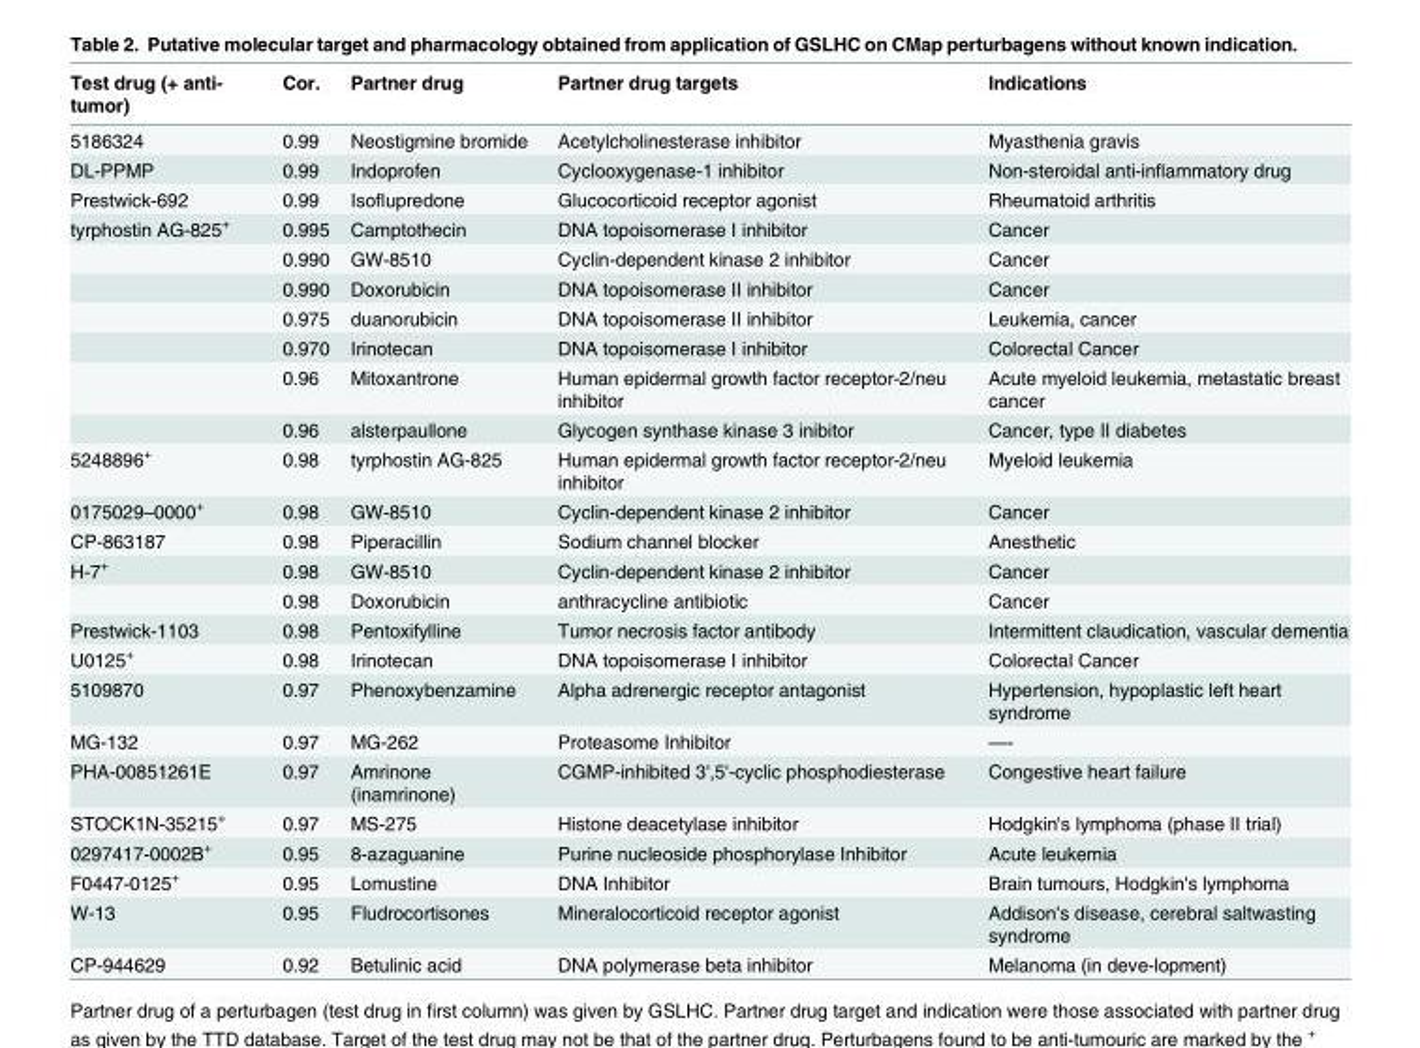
<table><thead><tr><td>Test drug (+ anti- tumor)</td><td>Cor.</td><td>Partner drug</td><td>Partner drug targets</td><td>Indications</td></tr></thead><tbody><tr><td>5186324</td><td>0.99</td><td>Neostigmine bromide</td><td>Acetylcholinesterase inhibitor</td><td>Myasthenia gravis</td></tr><tr><td>DL-PPMP</td><td>0.99</td><td>Indoprofen</td><td>Cyclooxygenase-1 inhibitor</td><td>Non-steroidal anti-inflammatory drug</td></tr><tr><td>Prestwick-692</td><td>0.99</td><td>Isoflupredone</td><td>Glucocorticoid receptor agonist</td><td>Rheumatoid arthritis</td></tr><tr><td rowspan="7">tyrphostin AG-825<sup>+</sup></td><td>0.995</td><td>Camptothecin</td><td>DNA topoisomerase I inhibitor</td><td>Cancer</td></tr><tr><td>0.990</td><td>GW-8510</td><td>Cyclin-dependent kinase 2 inhibitor</td><td>Cancer</td></tr><tr><td>0.990</td><td>Doxorubicin</td><td>DNA topoisomerase II inhibitor</td><td>Cancer</td></tr><tr><td>0.975</td><td>duanorubicin</td><td>DNA topoisomerase II inhibitor</td><td>Leukemia, cancer</td></tr><tr><td>0.970</td><td>Irinotecan</td><td>DNA topoisomerase I inhibitor</td><td>Colorectal Cancer</td></tr><tr><td>0.96</td><td>Mitoxantrone</td><td>Human epidermal growth factor receptor-2/neu inhibitor</td><td>Acute myeloid leukemia, metastatic breast cancer</td></tr><tr><td>0.96</td><td>alsterpaullone</td><td>Glycogen synthase kinase 3 inibitor</td><td>Cancer, type II diabetes</td></tr><tr><td>5248896<sup>+</sup></td><td>0.98</td><td>tyrphostin AG-825</td><td>Human epidermal growth factor receptor-2/neu inhibitor</td><td>Myeloid leukemia</td></tr><tr><td>0175029–0000<sup>+</sup></td><td>0.98</td><td>GW-8510</td><td>Cyclin-dependent kinase 2 inhibitor</td><td>Cancer</td></tr><tr><td>CP-863187</td><td>0.98</td><td>Piperacillin</td><td>Sodium channel blocker</td><td>Anesthetic</td></tr><tr><td rowspan="2">H-7<sup>+</sup></td><td>0.98</td><td>GW-8510</td><td>Cyclin-dependent kinase 2 inhibitor</td><td>Cancer</td></tr><tr><td>0.98</td><td>Doxorubicin</td><td>anthracycline antibiotic</td><td>Cancer</td></tr><tr><td>Prestwick-1103</td><td>0.98</td><td>Pentoxifylline</td><td>Tumor necrosis factor antibody</td><td>Intermittent claudication, vascular dementia</td></tr><tr><td>U0125<sup>+</sup></td><td>0.98</td><td>Irinotecan</td><td>DNA topoisomerase I inhibitor</td><td>Colorectal Cancer</td></tr><tr><td>5109870</td><td>0.97</td><td>Phenoxybenzamine</td><td>Alpha adrenergic receptor antagonist</td><td>Hypertension, hypoplastic left heart syndrome</td></tr><tr><td>MG-132</td><td>0.97</td><td>MG-262</td><td>Proteasome Inhibitor</td><td>—-</td></tr><tr><td>PHA-00851261E</td><td>0.97</td><td>Amrinone (inamrinone)</td><td>CGMP-inhibited 3&#x27;,5&#x27;-cyclic phosphodiesterase</td><td>Congestive heart failure</td></tr><tr><td>STOCK1N-35215<sup>+</sup></td><td>0.97</td><td>MS-275</td><td>Histone deacetylase inhibitor</td><td>Hodgkin&#x27;s lymphoma (phase II trial)</td></tr><tr><td>0297417-0002B<sup>+</sup></td><td>0.95</td><td>8-azaguanine</td><td>Purine nucleoside phosphorylase Inhibitor</td><td>Acute leukemia</td></tr><tr><td>F0447-0125<sup>+</sup></td><td>0.95</td><td>Lomustine</td><td>DNA Inhibitor</td><td>Brain tumours, Hodgkin&#x27;s lymphoma</td></tr><tr><td>W-13</td><td>0.95</td><td>Fludrocortisones</td><td>Mineralocorticoid receptor agonist</td><td>Addison&#x27;s disease, cerebral saltwasting syndrome</td></tr><tr><td>CP-944629</td><td>0.92</td><td>Betulinic acid</td><td>DNA polymerase beta inhibitor</td><td>Melanoma (in deve-lopment)</td></tr></tbody></table>